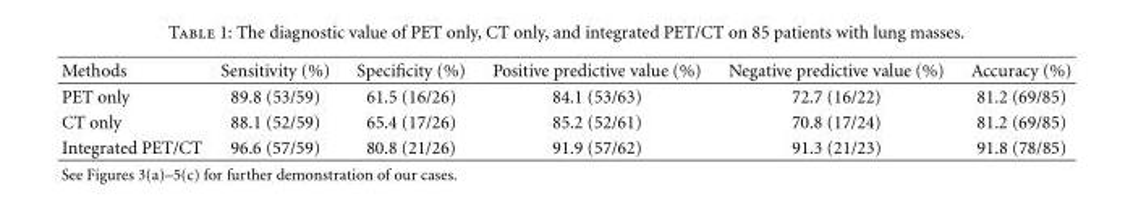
<table><thead><tr><td>Methods</td><td>Sensitivity (%)</td><td>Specificity (%)</td><td>Positive predictive value (%)</td><td>Negative predictive value (%)</td><td>Accuracy (%)</td></tr></thead><tbody><tr><td>PET only</td><td>89.8 (53/59)</td><td>61.5 (16/26)</td><td>84.1 (53/63)</td><td>72.7 (16/22)</td><td>81.2 (69/85)</td></tr><tr><td>CT only</td><td>88.1 (52/59)</td><td>65.4 (17/26)</td><td>85.2 (52/61)</td><td>70.8 (17/24)</td><td>81.2 (69/85)</td></tr><tr><td>Integrated PET/CT</td><td>96.6 (57/59)</td><td>80.8 (21/26)</td><td>91.9 (57/62)</td><td>91.3 (21/23)</td><td>91.8 (78/85)</td></tr></tbody></table>